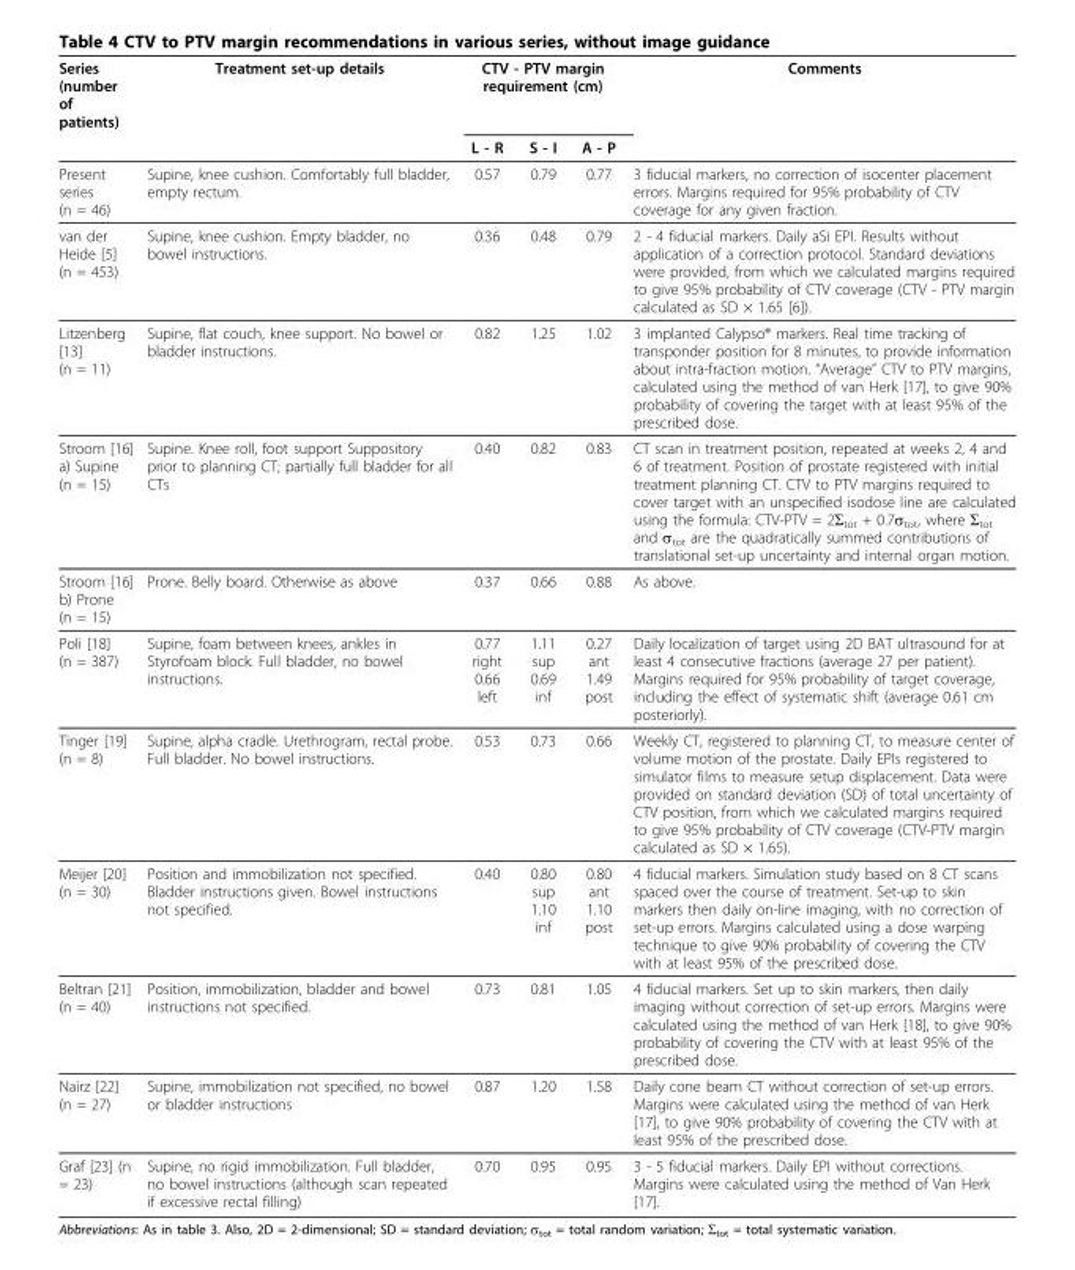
<table><thead><tr><td rowspan="2">Series (number of patients)</td><td rowspan="2">Treatment set-up details</td><td colspan="3">CTV - PTV margin requirement (cm)</td><td rowspan="2">Comments</td></tr><tr><td>L - R</td><td>S - I</td><td>A - P</td></tr></thead><tbody><tr><td>Present series (n = 46)</td><td>Supine, knee cushion. Comfortably full bladder, empty rectum.</td><td>0.57</td><td>0.79</td><td>0.77</td><td>3 fiducial markers, no correction of isocenter placement errors. Margins required for 95% probability of CTV coverage for any given fraction.</td></tr><tr><td>van der Heide [5] (n = 453)</td><td>Supine, knee cushion. Empty bladder, no bowel instructions.</td><td>0.36</td><td>0.48</td><td>0.79</td><td>2 - 4 fiducial markers. Daily aSi EPI. Results without application of a correction protocol. Standard deviations were provided, from which we calculated margins required to give 95% probability of CTV coverage (CTV - PTV margin calculated as SD × 1.65 [6]).</td></tr><tr><td>Litzenberg [13] (n = 11)</td><td>Supine, flat couch, knee support. No bowel or bladder instructions.</td><td>0.82</td><td>1.25</td><td>1.02</td><td>3 implanted Calypso® markers. Real time tracking of transponder position for 8 minutes, to provide information about intra-fraction motion. “Average” CTV to PTV margins, calculated using the method of van Herk [17], to give 90% probability of covering the target with at least 95% of the prescribed dose.</td></tr><tr><td>Stroom [16] a) Supine (n = 15)</td><td>Supine. Knee roll, foot support Suppository prior to planning CT; partially full bladder for all CTs</td><td>0.40</td><td>0.82</td><td>0.83</td><td>CT scan in treatment position, repeated at weeks 2, 4 and 6 of treatment. Position of prostate registered with initial treatment planning CT. CTV to PTV margins required to cover target with an unspecified isodose line are calculated using the formula: CTV-PTV = 2Σ<sub>tot</sub> + 0.7σ<sub>tot</sub>, where Σ<sub>tot</sub> and σ<sub>tot</sub> are the quadratically summed contributions of translational set-up uncertainty and internal organ motion.</td></tr><tr><td>Stroom [16] b) Prone (n = 15)</td><td>Prone. Belly board. Otherwise as above</td><td>0.37</td><td>0.66</td><td>0.88</td><td>As above.</td></tr><tr><td>Poli [18] (n = 387)</td><td>Supine, foam between knees, ankles in Styrofoam block. Full bladder, no bowel instructions.</td><td>0.77 right 0.66 left</td><td>1.11 sup 0.69 inf</td><td>0.27 ant 1.49 post</td><td>Daily localization of target using 2D BAT ultrasound for at least 4 consecutive fractions (average 27 per patient). Margins required for 95% probability of target coverage, including the effect of systematic shift (average 0.61 cm posteriorly).</td></tr><tr><td>Tinger [19] (n = 8)</td><td>Supine, alpha cradle. Urethrogram, rectal probe. Full bladder. No bowel instructions.</td><td>0.53</td><td>0.73</td><td>0.66</td><td>Weekly CT, registered to planning CT, to measure center of volume motion of the prostate. Daily EPIs registered to simulator films to measure setup displacement. Data were provided on standard deviation (SD) of total uncertainty of CTV position, from which we calculated margins required to give 95% probability of CTV coverage (CTV-PTV margin calculated as SD × 1.65).</td></tr><tr><td>Meijer [20] (n = 30)</td><td>Position and immobilization not specified. Bladder instructions given. Bowel instructions not specified.</td><td>0.40</td><td>0.80 sup 1.10 inf</td><td>0.80 ant 1.10 post</td><td>4 fiducial markers. Simulation study based on 8 CT scans spaced over the course of treatment. Set-up to skin markers then daily on-line imaging, with no correction of set-up errors. Margins calculated using a dose warping technique to give 90% probability of covering the CTV with at least 95% of the prescribed dose.</td></tr><tr><td>Beltran [21] (n = 40)</td><td>Position, immobilization, bladder and bowel instructions not specified.</td><td>0.73</td><td>0.81</td><td>1.05</td><td>4 fiducial markers. Set up to skin markers, then daily imaging without correction of set-up errors. Margins were calculated using the method of van Herk [18], to give 90% probability of covering the CTV with at least 95% of the prescribed dose.</td></tr><tr><td>Nairz [22] (n = 27)</td><td>Supine, immobilization not specified, no bowel or bladder instructions</td><td>0.87</td><td>1.20</td><td>1.58</td><td>Daily cone beam CT without correction of set-up errors. Margins were calculated using the method of van Herk [17], to give 90% probability of covering the CTV with at least 95% of the prescribed dose.</td></tr><tr><td>Graf [23] (n = 23)</td><td>Supine, no rigid immobilization. Full bladder, no bowel instructions (although scan repeated if excessive rectal filling)</td><td>0.70</td><td>0.95</td><td>0.95</td><td>3 - 5 fiducial markers. Daily EPI without corrections. Margins were calculated using the method of Van Herk [17].</td></tr></tbody></table>